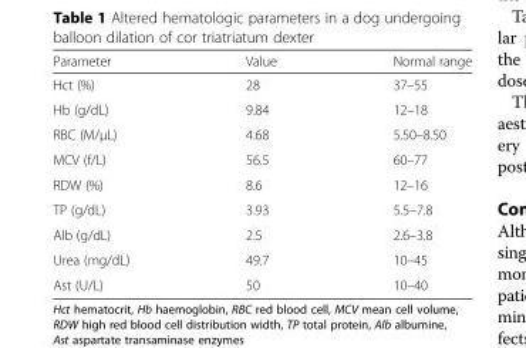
<table><thead><tr><td>Parameter</td><td>Value</td><td>Normal range</td></tr></thead><tbody><tr><td>Hct (%)</td><td>28</td><td>37–55</td></tr><tr><td>Hb (g/dL)</td><td>9.84</td><td>12–18</td></tr><tr><td>RBC (M/μL)</td><td>4.68</td><td>5.50–8.50</td></tr><tr><td>MCV (f/L)</td><td>56.5</td><td>60–77</td></tr><tr><td>RDW (%)</td><td>8.6</td><td>12–16</td></tr><tr><td>TP (g/dL)</td><td>3.93</td><td>5.5–7.8</td></tr><tr><td>Alb (g/dL)</td><td>2.5</td><td>2.6–3.8</td></tr><tr><td>Urea (mg/dL)</td><td>49.7</td><td>10–45</td></tr><tr><td>Ast (U/L)</td><td>50</td><td>10–40</td></tr></tbody></table>